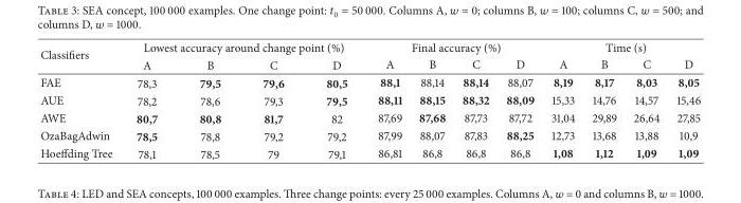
<table><thead><tr><td rowspan="2">Classifiers</td><td colspan="4">Lowest accuracy around change point (%)</td><td colspan="4">Final accuracy (%)</td><td colspan="4">Time (s)</td></tr><tr><td>A</td><td>B</td><td>C</td><td>D</td><td>A</td><td>B</td><td>C</td><td>D</td><td>A</td><td>B</td><td>C</td><td>D</td></tr></thead><tbody><tr><td>FAE</td><td>78,3</td><td>79,5</td><td>79,6</td><td>80,5</td><td>88,1</td><td>88,14</td><td>88,14</td><td>88,07</td><td>8,19</td><td>8,17</td><td>8,03</td><td>8,05</td></tr><tr><td>AUE</td><td>78,2</td><td>78,6</td><td>79,3</td><td>79,5</td><td>88,11</td><td>88,15</td><td>88,32</td><td>88,09</td><td>15,33</td><td>14,76</td><td>14,57</td><td>15,46</td></tr><tr><td>AWE</td><td>80,7</td><td>80,8</td><td>81,7</td><td>82</td><td>87,69</td><td>87,68</td><td>87,73</td><td>87,72</td><td>31,04</td><td>29,89</td><td>26,64</td><td>27,85</td></tr><tr><td>OzaBagAdwin</td><td>78,5</td><td>78,8</td><td>79,2</td><td>79,2</td><td>87,99</td><td>88,07</td><td>87,83</td><td>88,25</td><td>12,73</td><td>13,68</td><td>13,88</td><td>10,9</td></tr><tr><td>Hoeffding Tree</td><td>78,1</td><td>78,5</td><td>79</td><td>79,1</td><td>86,81</td><td>86,8</td><td>86,8</td><td>86,8</td><td>1,08</td><td>1,12</td><td>1,09</td><td>1,09</td></tr></tbody></table>